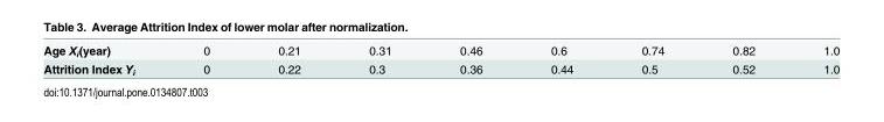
<table><tbody><tr><td>Age X<sub>i</sub>(year)</td><td>0</td><td>0.21</td><td>0.31</td><td>0.46</td><td>0.6</td><td>0.74</td><td>0.82</td><td>1.0</td></tr><tr><td>Attrition Index Y<sub>i</sub></td><td>0</td><td>0.22</td><td>0.3</td><td>0.36</td><td>0.44</td><td>0.5</td><td>0.52</td><td>1.0</td></tr></tbody></table>